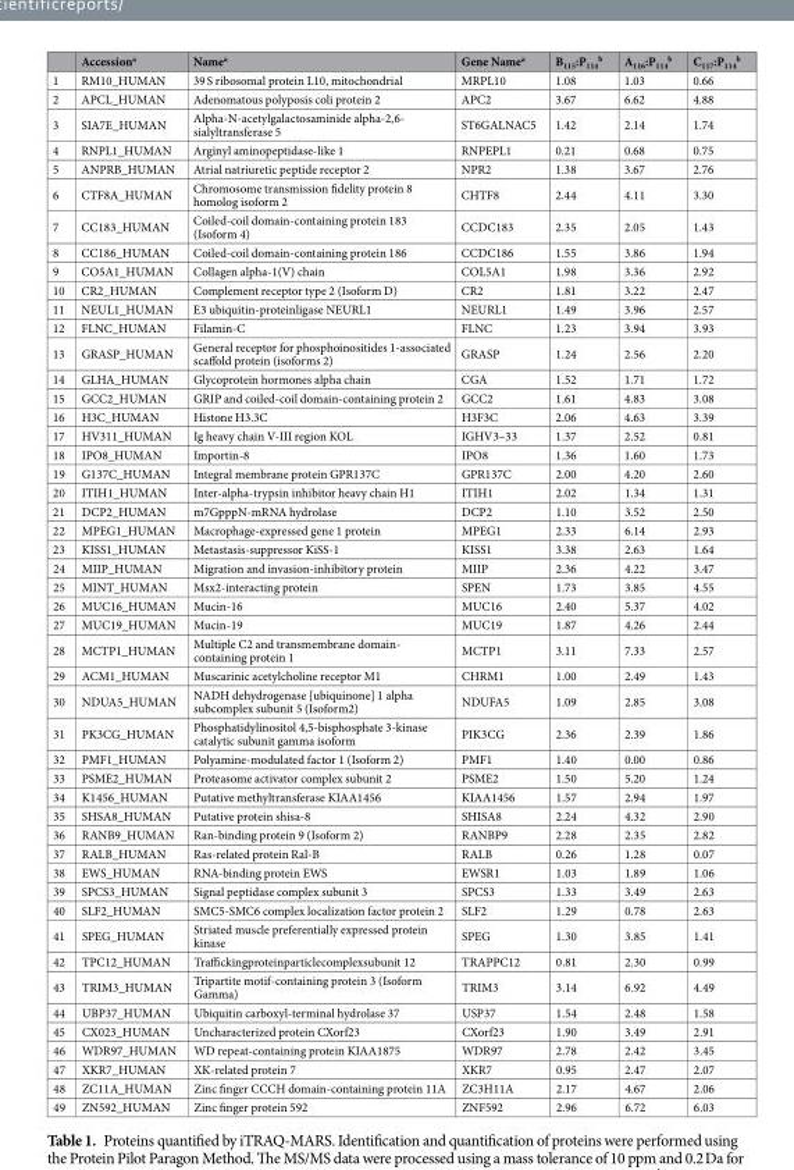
<table><thead><tr><td></td><td>Accession<sup>a</sup></td><td>Name<sup>a</sup></td><td>Gene Name<sup>a</sup></td><td>B<sub>115</sub>:P<sub>114</sub> <sup>b</sup></td><td>A<sub>116</sub>:P<sub>114</sub> <sup>b</sup></td><td>C<sub>117</sub>:P<sub>114</sub> <sup>b</sup></td></tr></thead><tbody><tr><td>1</td><td>RM10_HUMAN</td><td>39 S ribosomal protein L10, mitochondrial</td><td>MRPL10</td><td>1.08</td><td>1.03</td><td>0.66</td></tr><tr><td>2</td><td>APCL_HUMAN</td><td>Adenomatous polyposis coli protein 2</td><td>APC2</td><td>3.67</td><td>6.62</td><td>4.88</td></tr><tr><td>3</td><td>SIA7E_HUMAN</td><td>Alpha-N-acetylgalactosaminide alpha-2,6- sialyltransferase 5</td><td>ST6GALNAC5</td><td>1.42</td><td>2.14</td><td>1.74</td></tr><tr><td>4</td><td>RNPL1_HUMAN</td><td>Arginyl aminopeptidase-like 1</td><td>RNPEPL1</td><td>0.21</td><td>0.68</td><td>0.75</td></tr><tr><td>5</td><td>ANPRB_HUMAN</td><td>Atrial natriuretic peptide receptor 2</td><td>NPR2</td><td>1.38</td><td>3.67</td><td>2.76</td></tr><tr><td>6</td><td>CTF8A_HUMAN</td><td>Chromosome transmission fidelity protein 8 homolog isoform 2</td><td>CHTF8</td><td>2.44</td><td>4.11</td><td>3.30</td></tr><tr><td>7</td><td>CC183_HUMAN</td><td>Coiled-coil domain-containing protein 183 (Isoform 4)</td><td>CCDC183</td><td>2.35</td><td>2.05</td><td>1.43</td></tr><tr><td>8</td><td>CC186_HUMAN</td><td>Coiled-coil domain-containing protein 186</td><td>CCDC186</td><td>1.55</td><td>3.86</td><td>1.94</td></tr><tr><td>9</td><td>CO5A1_HUMAN</td><td>Collagen alpha-1(V) chain</td><td>COL5A1</td><td>1.98</td><td>3.36</td><td>2.92</td></tr><tr><td>10</td><td>CR2_HUMAN</td><td>Complement receptor type 2 (Isoform D)</td><td>CR2</td><td>1.81</td><td>3.22</td><td>2.47</td></tr><tr><td>11</td><td>NEUL1_HUMAN</td><td>E3 ubiquitin-proteinligase NEURL1</td><td>NEURL1</td><td>1.49</td><td>3.96</td><td>2.57</td></tr><tr><td>12</td><td>FLNC_HUMAN</td><td>Filamin-C</td><td>FLNC</td><td>1.23</td><td>3.94</td><td>3.93</td></tr><tr><td>13</td><td>GRASP_HUMAN</td><td>General receptor for phosphoinositides 1-associated scaffold protein (isoforms 2)</td><td>GRASP</td><td>1.24</td><td>2.56</td><td>2.20</td></tr><tr><td>14</td><td>GLHA_HUMAN</td><td>Glycoprotein hormones alpha chain</td><td>CGA</td><td>1.52</td><td>1.71</td><td>1.72</td></tr><tr><td>15</td><td>GCC2_HUMAN</td><td>GRIP and coiled-coil domain-containing protein 2</td><td>GCC2</td><td>1.61</td><td>4.83</td><td>3.08</td></tr><tr><td>16</td><td>H3C_HUMAN</td><td>Histone H3.3C</td><td>H3F3C</td><td>2.06</td><td>4.63</td><td>3.39</td></tr><tr><td>17</td><td>HV311_HUMAN</td><td>Ig heavy chain V-III region KOL</td><td>IGHV3–33</td><td>1.37</td><td>2.52</td><td>0.81</td></tr><tr><td>18</td><td>IPO8_HUMAN</td><td>Importin-8</td><td>IPO8</td><td>1.36</td><td>1.60</td><td>1.73</td></tr><tr><td>19</td><td>G137C_HUMAN</td><td>Integral membrane protein GPR137C</td><td>GPR137C</td><td>2.00</td><td>4.20</td><td>2.60</td></tr><tr><td>20</td><td>ITIH1_HUMAN</td><td>Inter-alpha-trypsin inhibitor heavy chain H1</td><td>ITIH1</td><td>2.02</td><td>1.34</td><td>1.31</td></tr><tr><td>21</td><td>DCP2_HUMAN</td><td>m7GpppN-mRNA hydrolase</td><td>DCP2</td><td>1.10</td><td>3.52</td><td>2.50</td></tr><tr><td>22</td><td>MPEG1_HUMAN</td><td>Macrophage-expressed gene 1 protein</td><td>MPEG1</td><td>2.33</td><td>6.14</td><td>2.93</td></tr><tr><td>23</td><td>KISS1_HUMAN</td><td>Metastasis-suppressor KiSS-1</td><td>KISS1</td><td>3.38</td><td>2.63</td><td>1.64</td></tr><tr><td>24</td><td>MIIP_HUMAN</td><td>Migration and invasion-inhibitory protein</td><td>MIIP</td><td>2.36</td><td>4.22</td><td>3.47</td></tr><tr><td>25</td><td>MINT_HUMAN</td><td>Msx2-interacting protein</td><td>SPEN</td><td>1.73</td><td>3.85</td><td>4.55</td></tr><tr><td>26</td><td>MUC16_HUMAN</td><td>Mucin-16</td><td>MUC16</td><td>2.40</td><td>5.37</td><td>4.02</td></tr><tr><td>27</td><td>MUC19_HUMAN</td><td>Mucin-19</td><td>MUC19</td><td>1.87</td><td>4.26</td><td>2.44</td></tr><tr><td>28</td><td>MCTP1_HUMAN</td><td>Multiple C2 and transmembrane domain- containing protein 1</td><td>MCTP1</td><td>3.11</td><td>7.33</td><td>2.57</td></tr><tr><td>29</td><td>ACM1_HUMAN</td><td>Muscarinic acetylcholine receptor M1</td><td>CHRM1</td><td>1.00</td><td>2.49</td><td>1.43</td></tr><tr><td>30</td><td>NDUA5_HUMAN</td><td>NADH dehydrogenase [ubiquinone] 1 alpha subcomplex subunit 5 (Isoform2)</td><td>NDUFA5</td><td>1.09</td><td>2.85</td><td>3.08</td></tr><tr><td>31</td><td>PK3CG_HUMAN</td><td>Phosphatidylinositol 4,5-bisphosphate 3-kinase catalytic subunit gamma isoform</td><td>PIK3CG</td><td>2.36</td><td>2.39</td><td>1.86</td></tr><tr><td>32</td><td>PMF1_HUMAN</td><td>Polyamine-modulated factor 1 (Isoform 2)</td><td>PMF1</td><td>1.40</td><td>0.00</td><td>0.86</td></tr><tr><td>33</td><td>PSME2_HUMAN</td><td>Proteasome activator complex subunit 2</td><td>PSME2</td><td>1.50</td><td>5.20</td><td>1.24</td></tr><tr><td>34</td><td>K1456_HUMAN</td><td>Putative methyltransferase KIAA1456</td><td>KIAA1456</td><td>1.57</td><td>2.94</td><td>1.97</td></tr><tr><td>35</td><td>SHSA8_HUMAN</td><td>Putative protein shisa-8</td><td>SHISA8</td><td>2.24</td><td>4.32</td><td>2.90</td></tr><tr><td>36</td><td>RANB9_HUMAN</td><td>Ran-binding protein 9 (Isoform 2)</td><td>RANBP9</td><td>2.28</td><td>2.35</td><td>2.82</td></tr><tr><td>37</td><td>RALB_HUMAN</td><td>Ras-related protein Ral-B</td><td>RALB</td><td>0.26</td><td>1.28</td><td>0.07</td></tr><tr><td>38</td><td>EWS_HUMAN</td><td>RNA-binding protein EWS</td><td>EWSR1</td><td>1.03</td><td>1.89</td><td>1.06</td></tr><tr><td>39</td><td>SPCS3_HUMAN</td><td>Signal peptidase complex subunit 3</td><td>SPCS3</td><td>1.33</td><td>3.49</td><td>2.63</td></tr><tr><td>40</td><td>SLF2_HUMAN</td><td>SMC5-SMC6 complex localization factor protein 2</td><td>SLF2</td><td>1.29</td><td>0.78</td><td>2.63</td></tr><tr><td>41</td><td>SPEG_HUMAN</td><td>Striated muscle preferentially expressed protein kinase</td><td>SPEG</td><td>1.30</td><td>3.85</td><td>1.41</td></tr><tr><td>42</td><td>TPC12_HUMAN</td><td>Traffickingproteinparticlecomplexsubunit 12</td><td>TRAPPC12</td><td>0.81</td><td>2.30</td><td>0.99</td></tr><tr><td>43</td><td>TRIM3_HUMAN</td><td>Tripartite motif-containing protein 3 (Isoform Gamma)</td><td>TRIM3</td><td>3.14</td><td>6.92</td><td>4.49</td></tr><tr><td>44</td><td>UBP37_HUMAN</td><td>Ubiquitin carboxyl-terminal hydrolase 37</td><td>USP37</td><td>1.54</td><td>2.48</td><td>1.58</td></tr><tr><td>45</td><td>CX023_HUMAN</td><td>Uncharacterized protein CXorf23</td><td>CXorf23</td><td>1.90</td><td>3.49</td><td>2.91</td></tr><tr><td>46</td><td>WDR97_HUMAN</td><td>WD repeat-containing protein KIAA1875</td><td>WDR97</td><td>2.78</td><td>2.42</td><td>3.45</td></tr><tr><td>47</td><td>XKR7_HUMAN</td><td>XK-related protein 7</td><td>XKR7</td><td>0.95</td><td>2.47</td><td>2.07</td></tr><tr><td>48</td><td>ZC11A_HUMAN</td><td>Zinc finger CCCH domain-containing protein 11A</td><td>ZC3H11A</td><td>2.17</td><td>4.67</td><td>2.06</td></tr><tr><td>49</td><td>ZN592_HUMAN</td><td>Zinc finger protein 592</td><td>ZNF592</td><td>2.96</td><td>6.72</td><td>6.03</td></tr></tbody></table>